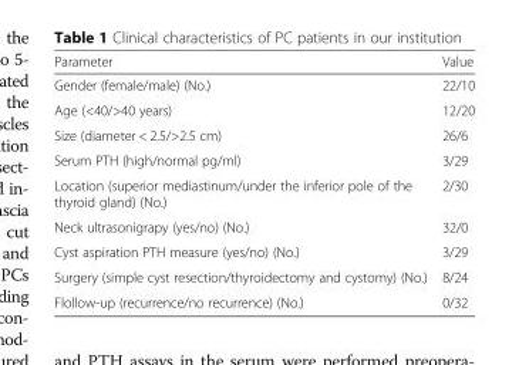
<table><thead><tr><td>Parameter</td><td>Value</td></tr></thead><tbody><tr><td>Gender (female/male) (No.)</td><td>22/10</td></tr><tr><td>Age (&lt;40/&gt;40 years)</td><td>12/20</td></tr><tr><td>Size (diameter &lt; 2.5/&gt;2.5 cm)</td><td>26/6</td></tr><tr><td>Serum PTH (high/normal pg/ml)</td><td>3/29</td></tr><tr><td>Location (superior mediastinum/under the inferior pole of the thyroid gland) (No.)</td><td>2/30</td></tr><tr><td>Neck ultrasonigrapy (yes/no) (No.)</td><td>32/0</td></tr><tr><td>Cyst aspiration PTH measure (yes/no) (No.)</td><td>3/29</td></tr><tr><td>Surgery (simple cyst resection/thyroidectomy and cystomy) (No.)</td><td>8/24</td></tr><tr><td>Flollow-up (recurrence/no recurrence) (No.)</td><td>0/32</td></tr></tbody></table>